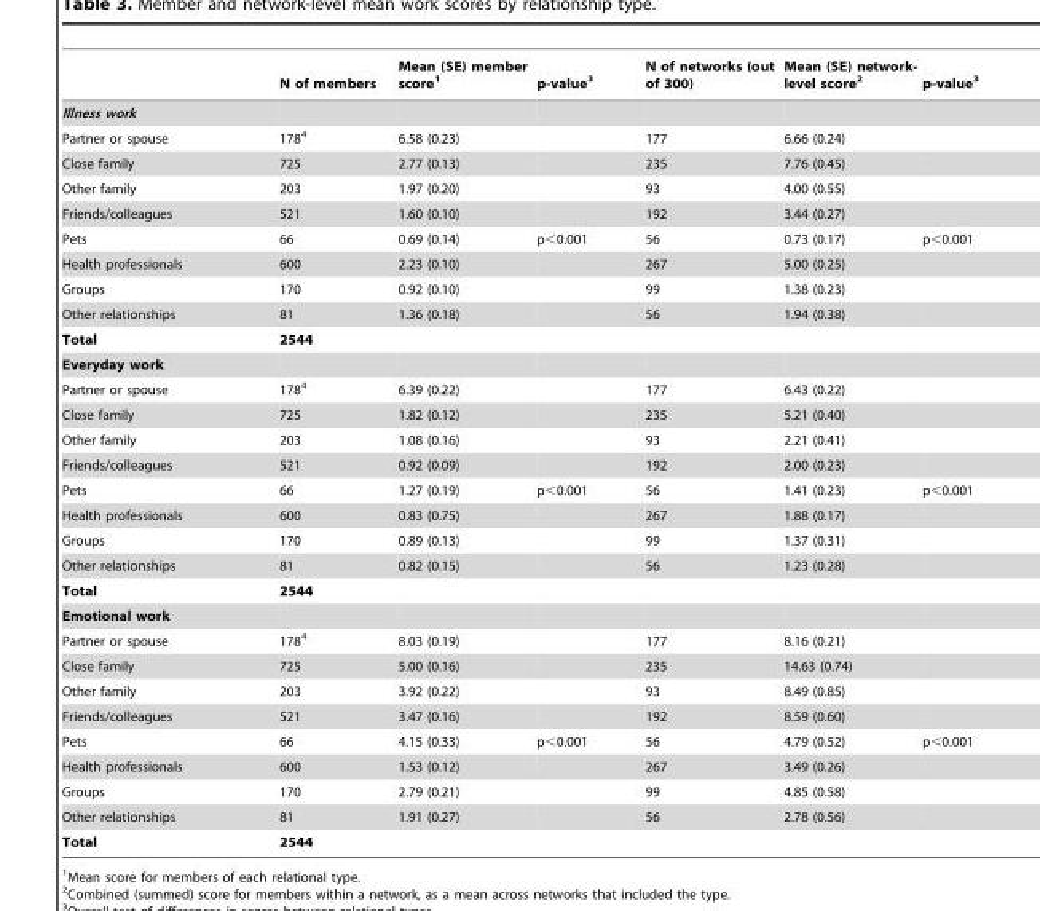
<table><thead><tr><td></td><td>N of members</td><td>Mean (SE) member score<sup>1</sup></td><td>p-value<sup>3</sup></td><td>N of networks (out of 300)</td><td>Mean (SE) network- level score<sup>2</sup></td><td>p-value<sup>3</sup></td></tr></thead><tbody><tr><td colspan="7">Illness work</td></tr><tr><td>Partner or spouse</td><td>178<sup>4</sup></td><td>6.58 (0.23)</td><td></td><td>177</td><td>6.66 (0.24)</td><td></td></tr><tr><td>Close family</td><td>725</td><td>2.77 (0.13)</td><td></td><td>235</td><td>7.76 (0.45)</td><td></td></tr><tr><td>Other family</td><td>203</td><td>1.97 (0.20)</td><td></td><td>93</td><td>4.00 (0.55)</td><td></td></tr><tr><td>Friends/colleagues</td><td>521</td><td>1.60 (0.10)</td><td></td><td>192</td><td>3.44 (0.27)</td><td></td></tr><tr><td>Pets</td><td>66</td><td>0.69 (0.14)</td><td>p&lt;0.001</td><td>56</td><td>0.73 (0.17)</td><td>p&lt;0.001</td></tr><tr><td>Health professionals</td><td>600</td><td>2.23 (0.10)</td><td></td><td>267</td><td>5.00 (0.25)</td><td></td></tr><tr><td>Groups</td><td>170</td><td>0.92 (0.10)</td><td></td><td>99</td><td>1.38 (0.23)</td><td></td></tr><tr><td>Other relationships</td><td>81</td><td>1.36 (0.18)</td><td></td><td>56</td><td>1.94 (0.38)</td><td></td></tr><tr><td>Total</td><td>2544</td><td></td><td></td><td></td><td></td><td></td></tr><tr><td colspan="7">Everyday work</td></tr><tr><td>Partner or spouse</td><td>178<sup>4</sup></td><td>6.39 (0.22)</td><td></td><td>177</td><td>6.43 (0.22)</td><td></td></tr><tr><td>Close family</td><td>725</td><td>1.82 (0.12)</td><td></td><td>235</td><td>5.21 (0.40)</td><td></td></tr><tr><td>Other family</td><td>203</td><td>1.08 (0.16)</td><td></td><td>93</td><td>2.21 (0.41)</td><td></td></tr><tr><td>Friends/colleagues</td><td>521</td><td>0.92 (0.09)</td><td></td><td>192</td><td>2.00 (0.23)</td><td></td></tr><tr><td>Pets</td><td>66</td><td>1.27 (0.19)</td><td>p&lt;0.001</td><td>56</td><td>1.41 (0.23)</td><td>p&lt;0.001</td></tr><tr><td>Health professionals</td><td>600</td><td>0.83 (0.75)</td><td></td><td>267</td><td>1.88 (0.17)</td><td></td></tr><tr><td>Groups</td><td>170</td><td>0.89 (0.13)</td><td></td><td>99</td><td>1.37 (0.31)</td><td></td></tr><tr><td>Other relationships</td><td>81</td><td>0.82 (0.15)</td><td></td><td>56</td><td>1.23 (0.28)</td><td></td></tr><tr><td>Total</td><td>2544</td><td></td><td></td><td></td><td></td><td></td></tr><tr><td colspan="7">Emotional work</td></tr><tr><td>Partner or spouse</td><td>178<sup>4</sup></td><td>8.03 (0.19)</td><td></td><td>177</td><td>8.16 (0.21)</td><td></td></tr><tr><td>Close family</td><td>725</td><td>5.00 (0.16)</td><td></td><td>235</td><td>14.63 (0.74)</td><td></td></tr><tr><td>Other family</td><td>203</td><td>3.92 (0.22)</td><td></td><td>93</td><td>8.49 (0.85)</td><td></td></tr><tr><td>Friends/colleagues</td><td>521</td><td>3.47 (0.16)</td><td></td><td>192</td><td>8.59 (0.60)</td><td></td></tr><tr><td>Pets</td><td>66</td><td>4.15 (0.33)</td><td>p&lt;0.001</td><td>56</td><td>4.79 (0.52)</td><td>p&lt;0.001</td></tr><tr><td>Health professionals</td><td>600</td><td>1.53 (0.12)</td><td></td><td>267</td><td>3.49 (0.26)</td><td></td></tr><tr><td>Groups</td><td>170</td><td>2.79 (0.21)</td><td></td><td>99</td><td>4.85 (0.58)</td><td></td></tr><tr><td>Other relationships</td><td>81</td><td>1.91 (0.27)</td><td></td><td>56</td><td>2.78 (0.56)</td><td></td></tr><tr><td>Total</td><td>2544</td><td></td><td></td><td></td><td></td><td></td></tr></tbody></table>